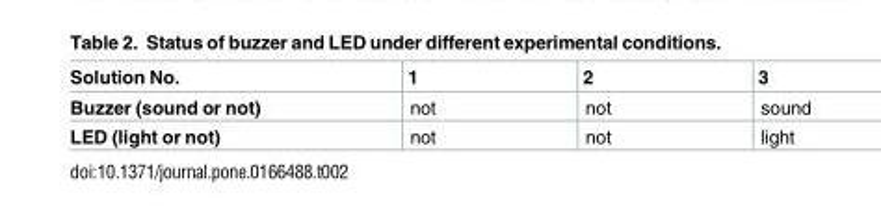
<table><thead><tr><td>Solution No.</td><td>1</td><td>2</td><td>3</td></tr></thead><tbody><tr><td>Buzzer (sound or not)</td><td>not</td><td>not</td><td>sound</td></tr><tr><td>LED (light or not)</td><td>not</td><td>not</td><td>light</td></tr></tbody></table>